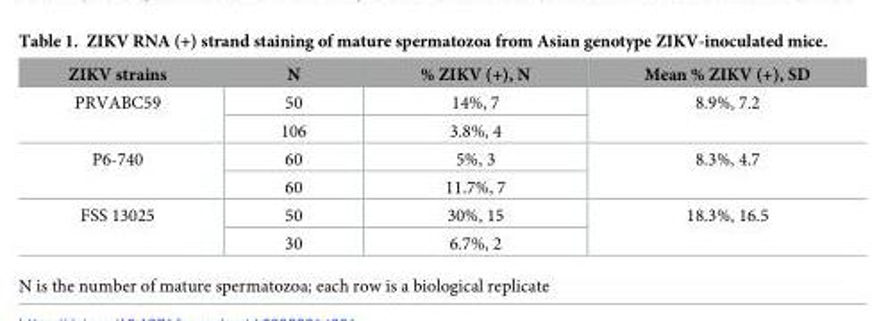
<table><thead><tr><td>ZIKV strains</td><td>N</td><td>% ZIKV (+), N</td><td>Mean % ZIKV (+), SD</td></tr></thead><tbody><tr><td rowspan="2">PRVABC59</td><td>50</td><td>14%, 7</td><td rowspan="2">8.9%, 7.2</td></tr><tr><td>106</td><td>3.8%, 4</td></tr><tr><td rowspan="2">P6-740</td><td>60</td><td>5%, 3</td><td rowspan="2">8.3%, 4.7</td></tr><tr><td>60</td><td>11.7%, 7</td></tr><tr><td rowspan="2">FSS 13025</td><td>50</td><td>30%, 15</td><td rowspan="2">18.3%, 16.5</td></tr><tr><td>30</td><td>6.7%, 2</td></tr></tbody></table>